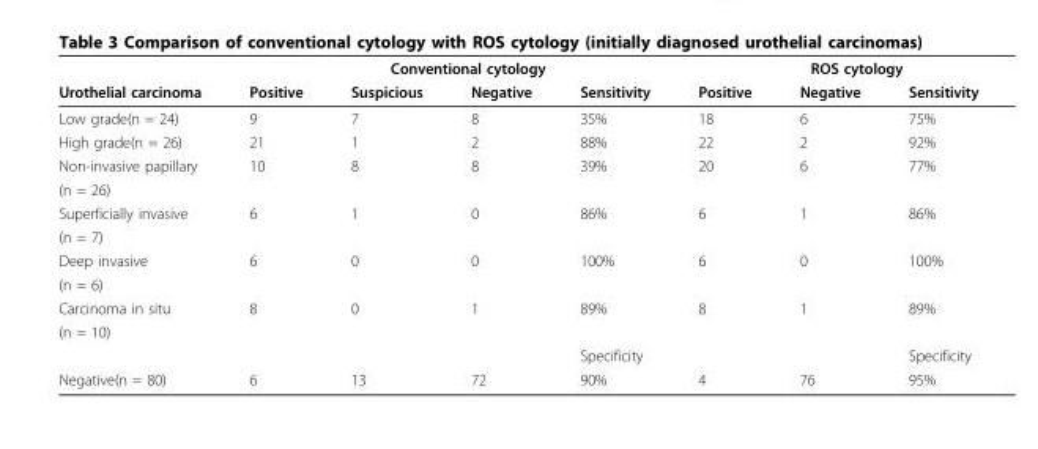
<table><thead><tr><td rowspan="2">Urothelial carcinoma</td><td colspan="4">Conventional cytology</td><td colspan="3">ROS cytology</td></tr><tr><td>Positive</td><td>Suspicious</td><td>Negative</td><td>Sensitivity</td><td>Positive</td><td>Negative</td><td>Sensitivity</td></tr></thead><tbody><tr><td>Low grade(n = 24)</td><td>9</td><td>7</td><td>8</td><td>35%</td><td>18</td><td>6</td><td>75%</td></tr><tr><td>High grade(n = 26)</td><td>21</td><td>1</td><td>2</td><td>88%</td><td>22</td><td>2</td><td>92%</td></tr><tr><td>Non-invasive papillary</td><td>10</td><td>8</td><td>8</td><td>39%</td><td>20</td><td>6</td><td>77%</td></tr><tr><td colspan="8">(n = 26)</td></tr><tr><td>Superficially invasive</td><td>6</td><td>1</td><td>0</td><td>86%</td><td>6</td><td>1</td><td>86%</td></tr><tr><td colspan="8">(n = 7)</td></tr><tr><td>Deep invasive</td><td>6</td><td>0</td><td>0</td><td>100%</td><td>6</td><td>0</td><td>100%</td></tr><tr><td colspan="8">(n = 6)</td></tr><tr><td>Carcinoma in situ</td><td>8</td><td>0</td><td>1</td><td>89%</td><td>8</td><td>1</td><td>89%</td></tr><tr><td colspan="8">(n = 10)</td></tr><tr><td></td><td></td><td></td><td></td><td>Specificity</td><td></td><td></td><td>Specificity</td></tr><tr><td>Negative(n = 80)</td><td>6</td><td>13</td><td>72</td><td>90%</td><td>4</td><td>76</td><td>95%</td></tr></tbody></table>